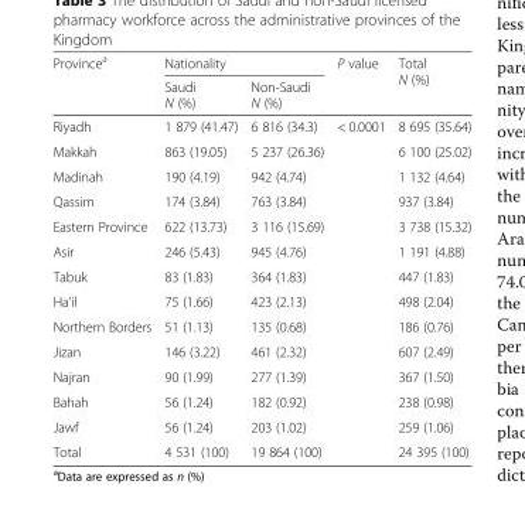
<table><thead><tr><td rowspan="2">Province<sup>a</sup></td><td colspan="2">Nationality</td><td rowspan="2">P value</td><td rowspan="2">Total N (%)</td></tr><tr><td>Saudi N (%)</td><td>Non-Saudi N (%)</td></tr></thead><tbody><tr><td>Riyadh</td><td>1 879 (41.47)</td><td>6 816 (34.3)</td><td rowspan="14">&lt; 0.0001</td><td>8 695 (35.64)</td></tr><tr><td>Makkah</td><td>863 (19.05)</td><td>5 237 (26.36)</td><td>6 100 (25.02)</td></tr><tr><td>Madinah</td><td>190 (4.19)</td><td>942 (4.74)</td><td>1 132 (4.64)</td></tr><tr><td>Qassim</td><td>174 (3.84)</td><td>763 (3.84)</td><td>937 (3.84)</td></tr><tr><td>Eastern Province</td><td>622 (13.73)</td><td>3 116 (15.69)</td><td>3 738 (15.32)</td></tr><tr><td>Asir</td><td>246 (5.43)</td><td>945 (4.76)</td><td>1 191 (4.88)</td></tr><tr><td>Tabuk</td><td>83 (1.83)</td><td>364 (1.83)</td><td>447 (1.83)</td></tr><tr><td>Ha’il</td><td>75 (1.66)</td><td>423 (2.13)</td><td>498 (2.04)</td></tr><tr><td>Northern Borders</td><td>51 (1.13)</td><td>135 (0.68)</td><td>186 (0.76)</td></tr><tr><td>Jizan</td><td>146 (3.22)</td><td>461 (2.32)</td><td>607 (2.49)</td></tr><tr><td>Najran</td><td>90 (1.99)</td><td>277 (1.39)</td><td>367 (1.50)</td></tr><tr><td>Bahah</td><td>56 (1.24)</td><td>182 (0.92)</td><td>238 (0.98)</td></tr><tr><td>Jawf</td><td>56 (1.24)</td><td>203 (1.02)</td><td>259 (1.06)</td></tr><tr><td>Total</td><td>4 531 (100)</td><td>19 864 (100)</td><td>24 395 (100)</td></tr></tbody></table>